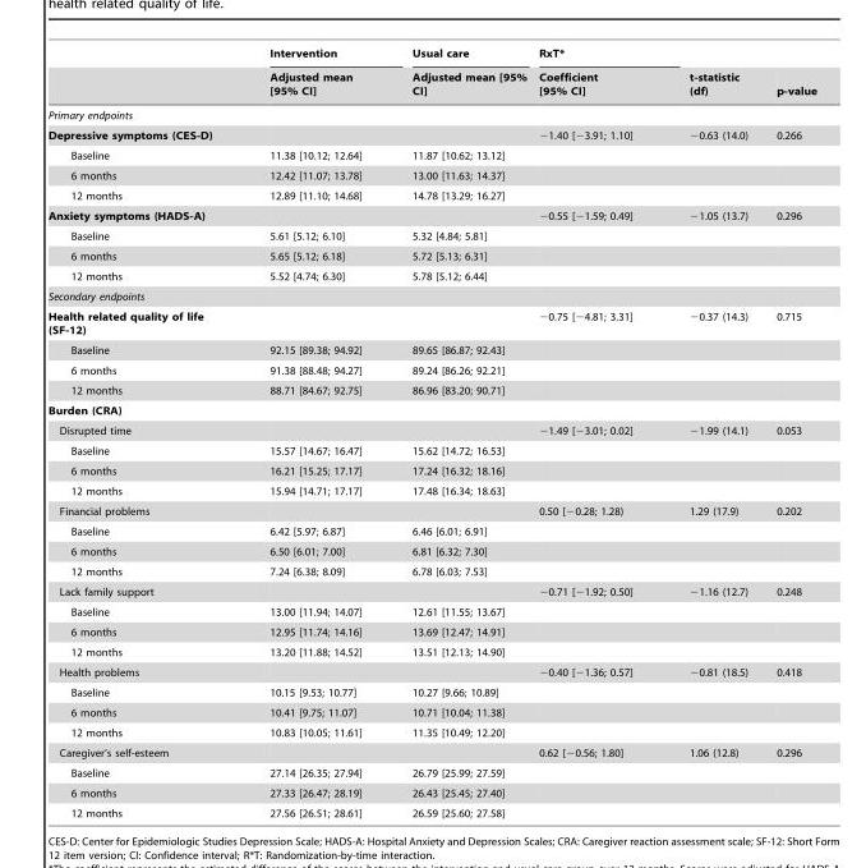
<table><thead><tr><td rowspan="2"></td><td rowspan="2">Intervention Adjusted mean [95% CI]</td><td rowspan="2">Usual care Adjusted mean [95% CI]</td><td rowspan="2">RxT* Coefficient [95% CI]</td><td rowspan="2">t-statistic (df)</td><td rowspan="2">p-value</td></tr><tr></tr></thead><tbody><tr><td colspan="6">Primary endpoints</td></tr><tr><td>Depressive symptoms (CES-D)</td><td></td><td></td><td>−1.40 [−3.91; 1.10]</td><td>−0.63 (14.0)</td><td>0.266</td></tr><tr><td>Baseline</td><td>11.38 [10.12; 12.64]</td><td>11.87 [10.62; 13.12]</td><td></td><td></td><td></td></tr><tr><td>6 months</td><td>12.42 [11.07; 13.78]</td><td>13.00 [11.63; 14.37]</td><td></td><td></td><td></td></tr><tr><td>12 months</td><td>12.89 [11.10; 14.68]</td><td>14.78 [13.29; 16.27]</td><td></td><td></td><td></td></tr><tr><td>Anxiety symptoms (HADS-A)</td><td></td><td></td><td>−0.55 [−1.59; 0.49]</td><td>−1.05 (13.7)</td><td>0.296</td></tr><tr><td>Baseline</td><td>5.61 [5.12; 6.10]</td><td>5.32 [4.84; 5.81]</td><td></td><td></td><td></td></tr><tr><td>6 months</td><td>5.65 [5.12; 6.18]</td><td>5.72 [5.13; 6.31]</td><td></td><td></td><td></td></tr><tr><td>12 months</td><td>5.52 [4.74; 6.30]</td><td>5.78 [5.12; 6.44]</td><td></td><td></td><td></td></tr><tr><td colspan="6">Secondary endpoints</td></tr><tr><td>Health related quality of life (SF-12)</td><td></td><td></td><td>−0.75 [−4.81; 3.31]</td><td>−0.37 (14.3)</td><td>0.715</td></tr><tr><td>Baseline</td><td>92.15 [89.38; 94.92]</td><td>89.65 [86.87; 92.43]</td><td></td><td></td><td></td></tr><tr><td>6 months</td><td>91.38 [88.48; 94.27]</td><td>89.24 [86.26; 92.21]</td><td></td><td></td><td></td></tr><tr><td>12 months</td><td>88.71 [84.67; 92.75]</td><td>86.96 [83.20; 90.71]</td><td></td><td></td><td></td></tr><tr><td colspan="6">Burden (CRA)</td></tr><tr><td>Disrupted time</td><td></td><td></td><td>−1.49 [−3.01; 0.02]</td><td>−1.99 (14.1)</td><td>0.053</td></tr><tr><td>Baseline</td><td>15.57 [14.67; 16.47]</td><td>15.62 [14.72; 16.53]</td><td></td><td></td><td></td></tr><tr><td>6 months</td><td>16.21 [15.25; 17.17]</td><td>17.24 [16.32; 18.16]</td><td></td><td></td><td></td></tr><tr><td>12 months</td><td>15.94 [14.71; 17.17]</td><td>17.48 [16.34; 18.63]</td><td></td><td></td><td></td></tr><tr><td>Financial problems</td><td></td><td></td><td>0.50 [−0.28; 1.28)</td><td>1.29 (17.9)</td><td>0.202</td></tr><tr><td>Baseline</td><td>6.42 [5.97; 6.87]</td><td>6.46 [6.01; 6.91]</td><td></td><td></td><td></td></tr><tr><td>6 months</td><td>6.50 [6.01; 7.00]</td><td>6.81 [6.32; 7.30]</td><td></td><td></td><td></td></tr><tr><td>12 months</td><td>7.24 [6.38; 8.09]</td><td>6.78 [6.03; 7.53]</td><td></td><td></td><td></td></tr><tr><td>Lack family support</td><td></td><td></td><td>−0.71 [−1.92; 0.50]</td><td>−1.16 (12.7)</td><td>0.248</td></tr><tr><td>Baseline</td><td>13.00 [11.94; 14.07]</td><td>12.61 [11.55; 13.67]</td><td></td><td></td><td></td></tr><tr><td>6 months</td><td>12.95 [11.74; 14.16]</td><td>13.69 [12.47; 14.91]</td><td></td><td></td><td></td></tr><tr><td>12 months</td><td>13.20 [11.88; 14.52]</td><td>13.51 [12.13; 14.90]</td><td></td><td></td><td></td></tr><tr><td>Health problems</td><td></td><td></td><td>−0.40 [−1.36; 0.57]</td><td>−0.81 (18.5)</td><td>0.418</td></tr><tr><td>Baseline</td><td>10.15 [9.53; 10.77]</td><td>10.27 [9.66; 10.89]</td><td></td><td></td><td></td></tr><tr><td>6 months</td><td>10.41 [9.75; 11.07]</td><td>10.71 [10.04; 11.38]</td><td></td><td></td><td></td></tr><tr><td>12 months</td><td>10.83 [10.05; 11.61]</td><td>11.35 [10.49; 12.20]</td><td></td><td></td><td></td></tr><tr><td>Caregiver’s self-esteem</td><td></td><td></td><td>0.62 [−0.56; 1.80]</td><td>1.06 (12.8)</td><td>0.296</td></tr><tr><td>Baseline</td><td>27.14 [26.35; 27.94]</td><td>26.79 [25.99; 27.59]</td><td></td><td></td><td></td></tr><tr><td>6 months</td><td>27.33 [26.47; 28.19]</td><td>26.43 [25.45; 27.40]</td><td></td><td></td><td></td></tr><tr><td>12 months</td><td>27.56 [26.51; 28.61]</td><td>26.59 [25.60; 27.58]</td><td></td><td></td><td></td></tr></tbody></table>